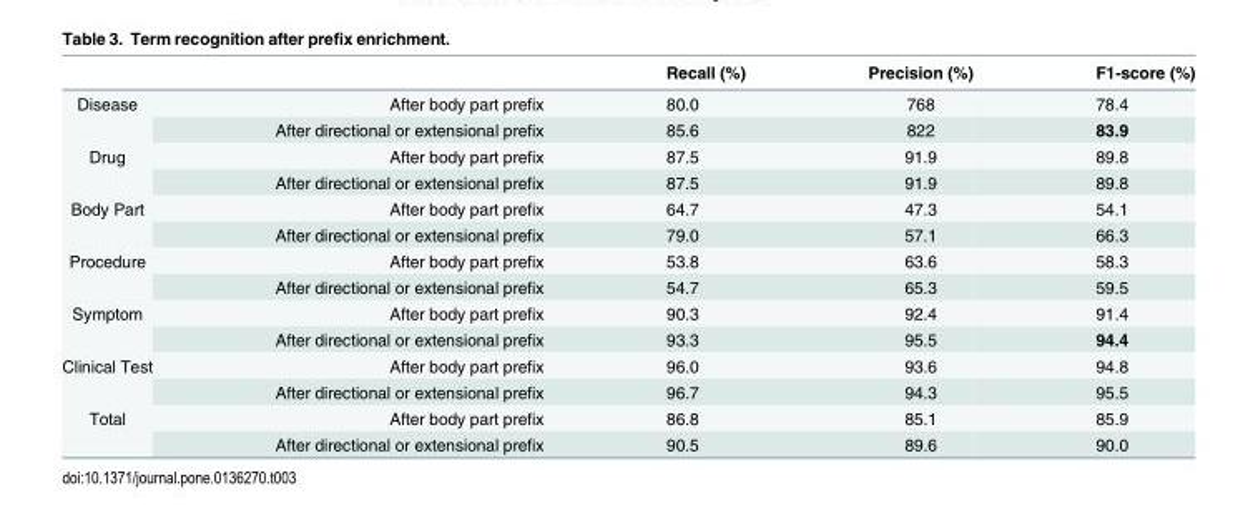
<table><thead><tr><td></td><td></td><td>Recall (%)</td><td>Precision (%)</td><td>F1-score (%)</td></tr></thead><tbody><tr><td rowspan="2">Disease</td><td>After body part prefix</td><td>80.0</td><td>768</td><td>78.4</td></tr><tr><td>After directional or extensional prefix</td><td>85.6</td><td>822</td><td>83.9</td></tr><tr><td rowspan="2">Drug</td><td>After body part prefix</td><td>87.5</td><td>91.9</td><td>89.8</td></tr><tr><td>After directional or extensional prefix</td><td>87.5</td><td>91.9</td><td>89.8</td></tr><tr><td rowspan="2">Body Part</td><td>After body part prefix</td><td>64.7</td><td>47.3</td><td>54.1</td></tr><tr><td>After directional or extensional prefix</td><td>79.0</td><td>57.1</td><td>66.3</td></tr><tr><td rowspan="2">Procedure</td><td>After body part prefix</td><td>53.8</td><td>63.6</td><td>58.3</td></tr><tr><td>After directional or extensional prefix</td><td>54.7</td><td>65.3</td><td>59.5</td></tr><tr><td rowspan="2">Symptom</td><td>After body part prefix</td><td>90.3</td><td>92.4</td><td>91.4</td></tr><tr><td>After directional or extensional prefix</td><td>93.3</td><td>95.5</td><td>94.4</td></tr><tr><td rowspan="2">Clinical Test</td><td>After body part prefix</td><td>96.0</td><td>93.6</td><td>94.8</td></tr><tr><td>After directional or extensional prefix</td><td>96.7</td><td>94.3</td><td>95.5</td></tr><tr><td rowspan="2">Total</td><td>After body part prefix</td><td>86.8</td><td>85.1</td><td>85.9</td></tr><tr><td>After directional or extensional prefix</td><td>90.5</td><td>89.6</td><td>90.0</td></tr></tbody></table>